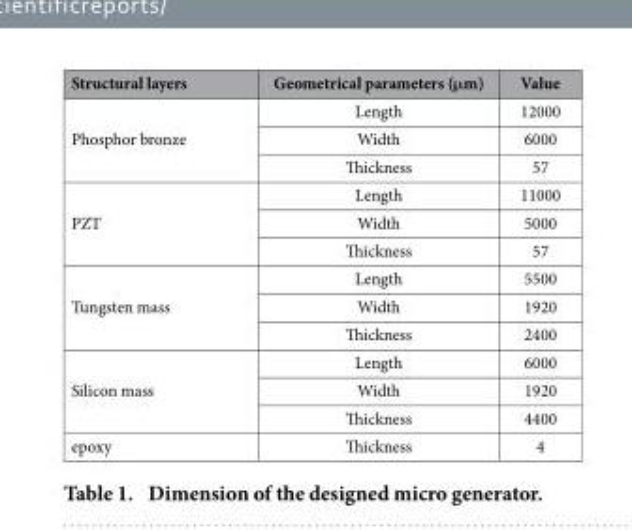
<table><thead><tr><td>Structural layers</td><td>Geometrical parameters (μm)</td><td>Value</td></tr></thead><tbody><tr><td rowspan="3">Phosphor bronze</td><td>Length</td><td>12000</td></tr><tr><td>Width</td><td>6000</td></tr><tr><td>Thickness</td><td>57</td></tr><tr><td rowspan="3">PZT</td><td>Length</td><td>11000</td></tr><tr><td>Width</td><td>5000</td></tr><tr><td>Thickness</td><td>57</td></tr><tr><td rowspan="3">Tungsten mass</td><td>Length</td><td>5500</td></tr><tr><td>Width</td><td>1920</td></tr><tr><td>Thickness</td><td>2400</td></tr><tr><td rowspan="3">Silicon mass</td><td>Length</td><td>6000</td></tr><tr><td>Width</td><td>1920</td></tr><tr><td>Thickness</td><td>4400</td></tr><tr><td>epoxy</td><td>Thickness</td><td>4</td></tr></tbody></table>